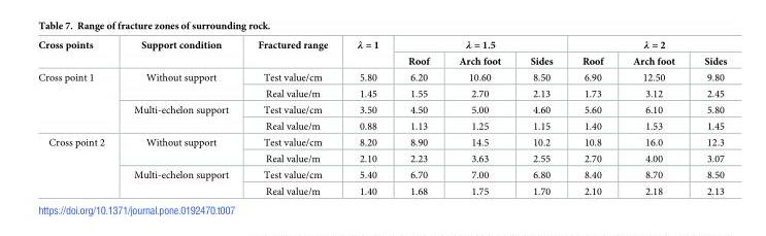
<table><thead><tr><td rowspan="2">Cross points</td><td rowspan="2">Support condition</td><td rowspan="2">Fractured range</td><td rowspan="2">λ = 1</td><td colspan="3">λ = 1.5</td><td colspan="3">λ = 2</td></tr><tr><td>Roof</td><td>Arch foot</td><td>Sides</td><td>Roof</td><td>Arch foot</td><td>Sides</td></tr></thead><tbody><tr><td rowspan="4">Cross point 1</td><td rowspan="2">Without support</td><td>Test value/cm</td><td>5.80</td><td>6.20</td><td>10.60</td><td>8.50</td><td>6.90</td><td>12.50</td><td>9.80</td></tr><tr><td>Real value/m</td><td>1.45</td><td>1.55</td><td>2.70</td><td>2.13</td><td>1.73</td><td>3.12</td><td>2.45</td></tr><tr><td rowspan="2">Multi-echelon support</td><td>Test value/cm</td><td>3.50</td><td>4.50</td><td>5.00</td><td>4.60</td><td>5.60</td><td>6.10</td><td>5.80</td></tr><tr><td>Real value/m</td><td>0.88</td><td>1.13</td><td>1.25</td><td>1.15</td><td>1.40</td><td>1.53</td><td>1.45</td></tr><tr><td rowspan="4">Cross point 2</td><td rowspan="2">Without support</td><td>Test value/cm</td><td>8.20</td><td>8.90</td><td>14.5</td><td>10.2</td><td>10.8</td><td>16.0</td><td>12.3</td></tr><tr><td>Real value/m</td><td>2.10</td><td>2.23</td><td>3.63</td><td>2.55</td><td>2.70</td><td>4.00</td><td>3.07</td></tr><tr><td rowspan="2">Multi-echelon support</td><td>Test value/cm</td><td>5.40</td><td>6.70</td><td>7.00</td><td>6.80</td><td>8.40</td><td>8.70</td><td>8.50</td></tr><tr><td>Real value/m</td><td>1.40</td><td>1.68</td><td>1.75</td><td>1.70</td><td>2.10</td><td>2.18</td><td>2.13</td></tr></tbody></table>